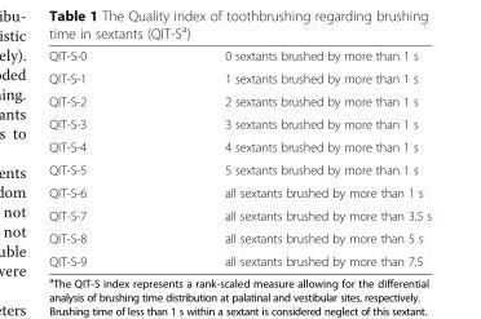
<table><tbody><tr><td>QIT-S-0</td><td>0 sextants brushed by more than 1 s</td></tr><tr><td>QIT-S-1</td><td>1 sextants brushed by more than 1 s</td></tr><tr><td>QIT-S-2</td><td>2 sextants brushed by more than 1 s</td></tr><tr><td>QIT-S-3</td><td>3 sextants brushed by more than 1 s</td></tr><tr><td>QIT-S-4</td><td>4 sextants brushed by more than 1 s</td></tr><tr><td>QIT-S-5</td><td>5 sextants brushed by more than 1 s</td></tr><tr><td>QIT-S-6</td><td>all sextants brushed by more than 1 s</td></tr><tr><td>QIT-S-7</td><td>all sextants brushed by more than 3.5 s</td></tr><tr><td>QIT-S-8</td><td>all sextants brushed by more than 5 s</td></tr><tr><td>QIT-S-9</td><td>all sextants brushed by more than 7.5</td></tr></tbody></table>